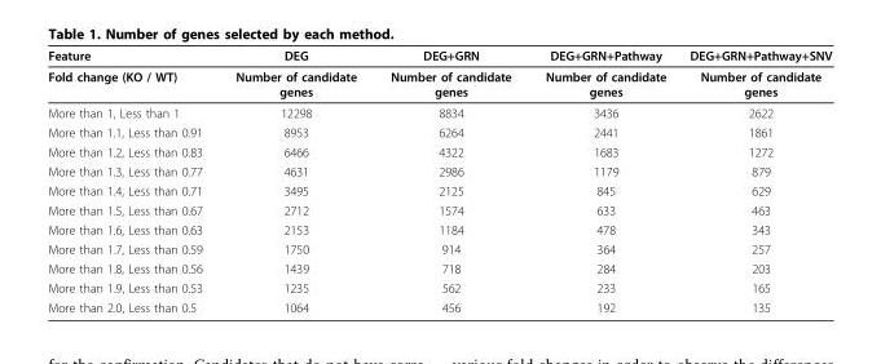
<table><thead><tr><td>Feature</td><td>DEG</td><td>DEG+GRN</td><td>DEG+GRN+Pathway</td><td>DEG+GRN+Pathway+SNV</td></tr></thead><tbody><tr><td>Fold change (KO / WT)</td><td>Number of candidate genes</td><td>Number of candidate genes</td><td>Number of candidate genes</td><td>Number of candidate genes</td></tr><tr><td>More than 1, Less than 1</td><td>12298</td><td>8834</td><td>3436</td><td>2622</td></tr><tr><td>More than 1.1, Less than 0.91</td><td>8953</td><td>6264</td><td>2441</td><td>1861</td></tr><tr><td>More than 1.2, Less than 0.83</td><td>6466</td><td>4322</td><td>1683</td><td>1272</td></tr><tr><td>More than 1.3, Less than 0.77</td><td>4631</td><td>2986</td><td>1179</td><td>879</td></tr><tr><td>More than 1.4, Less than 0.71</td><td>3495</td><td>2125</td><td>845</td><td>629</td></tr><tr><td>More than 1.5, Less than 0.67</td><td>2712</td><td>1574</td><td>633</td><td>463</td></tr><tr><td>More than 1.6, Less than 0.63</td><td>2153</td><td>1184</td><td>478</td><td>343</td></tr><tr><td>More than 1.7, Less than 0.59</td><td>1750</td><td>914</td><td>364</td><td>257</td></tr><tr><td>More than 1.8, Less than 0.56</td><td>1439</td><td>718</td><td>284</td><td>203</td></tr><tr><td>More than 1.9, Less than 0.53</td><td>1235</td><td>562</td><td>233</td><td>165</td></tr><tr><td>More than 2.0, Less than 0.5</td><td>1064</td><td>456</td><td>192</td><td>135</td></tr></tbody></table>